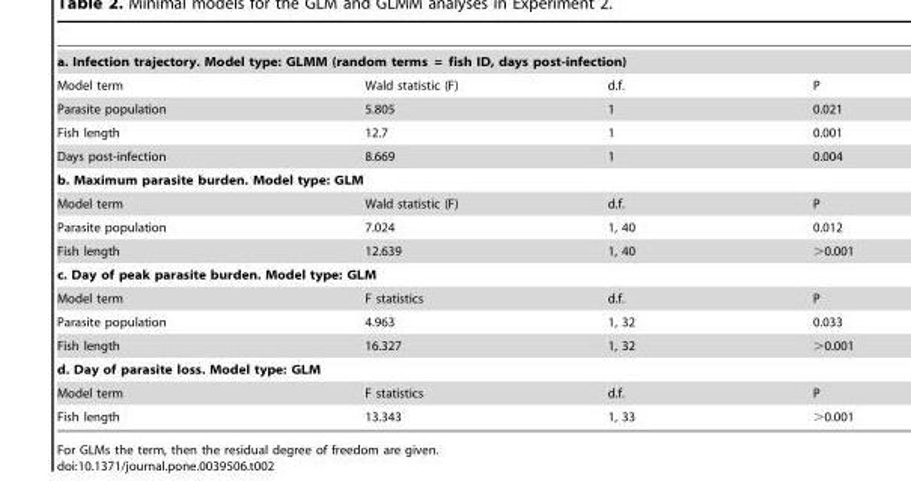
<table><tbody><tr><td colspan="4">a. Infection trajectory. Model type: GLMM (random terms = fish ID, days post-infection)</td></tr><tr><td>Model term</td><td>Wald statistic (F)</td><td>d.f.</td><td>P</td></tr><tr><td>Parasite population</td><td>5.805</td><td>1</td><td>0.021</td></tr><tr><td>Fish length</td><td>12.7</td><td>1</td><td>0.001</td></tr><tr><td>Days post-infection</td><td>8.669</td><td>1</td><td>0.004</td></tr><tr><td colspan="4">b. Maximum parasite burden. Model type: GLM</td></tr><tr><td>Model term</td><td>Wald statistic (F)</td><td>d.f.</td><td>P</td></tr><tr><td>Parasite population</td><td>7.024</td><td>1, 40</td><td>0.012</td></tr><tr><td>Fish length</td><td>12.639</td><td>1, 40</td><td>&gt;0.001</td></tr><tr><td colspan="4">c. Day of peak parasite burden. Model type: GLM</td></tr><tr><td>Model term</td><td>F statistics</td><td>d.f.</td><td>P</td></tr><tr><td>Parasite population</td><td>4.963</td><td>1, 32</td><td>0.033</td></tr><tr><td>Fish length</td><td>16.327</td><td>1, 32</td><td>&gt;0.001</td></tr><tr><td colspan="4">d. Day of parasite loss. Model type: GLM</td></tr><tr><td>Model term</td><td>F statistics</td><td>d.f.</td><td>P</td></tr><tr><td>Fish length</td><td>13.343</td><td>1, 33</td><td>&gt;0.001</td></tr></tbody></table>